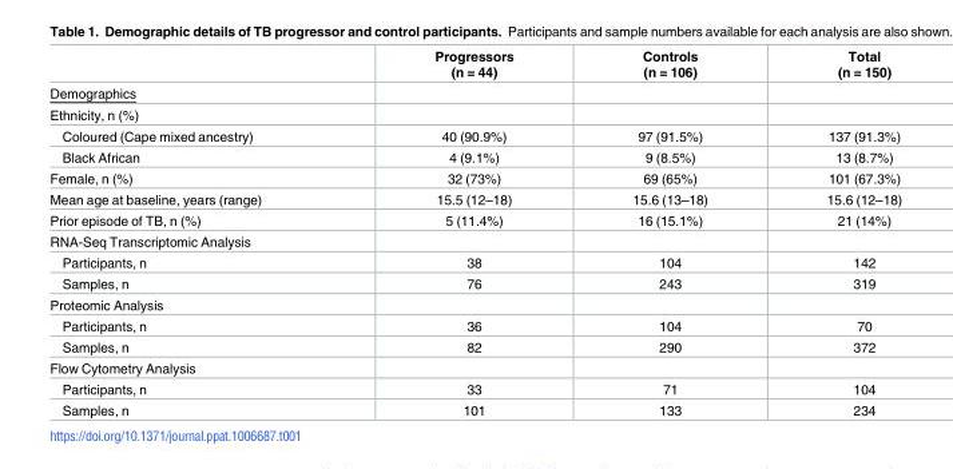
<table><thead><tr><td></td><td>Progressors (n = 44)</td><td>Controls (n = 106)</td><td>Total (n = 150)</td></tr></thead><tbody><tr><td colspan="4">Demographics</td></tr><tr><td colspan="4">Ethnicity, n (%)</td></tr><tr><td>Coloured (Cape mixed ancestry)</td><td>40 (90.9%)</td><td>97 (91.5%)</td><td>137 (91.3%)</td></tr><tr><td>Black African</td><td>4 (9.1%)</td><td>9 (8.5%)</td><td>13 (8.7%)</td></tr><tr><td>Female, n (%)</td><td>32 (73%)</td><td>69 (65%)</td><td>101 (67.3%)</td></tr><tr><td>Mean age at baseline, years (range)</td><td>15.5 (12–18)</td><td>15.6 (13–18)</td><td>15.6 (12–18)</td></tr><tr><td>Prior episode of TB, n (%)</td><td>5 (11.4%)</td><td>16 (15.1%)</td><td>21 (14%)</td></tr><tr><td colspan="4">RNA-Seq Transcriptomic Analysis</td></tr><tr><td>Participants, n</td><td>38</td><td>104</td><td>142</td></tr><tr><td>Samples, n</td><td>76</td><td>243</td><td>319</td></tr><tr><td colspan="4">Proteomic Analysis</td></tr><tr><td>Participants, n</td><td>36</td><td>104</td><td>70</td></tr><tr><td>Samples, n</td><td>82</td><td>290</td><td>372</td></tr><tr><td colspan="4">Flow Cytometry Analysis</td></tr><tr><td>Participants, n</td><td>33</td><td>71</td><td>104</td></tr><tr><td>Samples, n</td><td>101</td><td>133</td><td>234</td></tr></tbody></table>